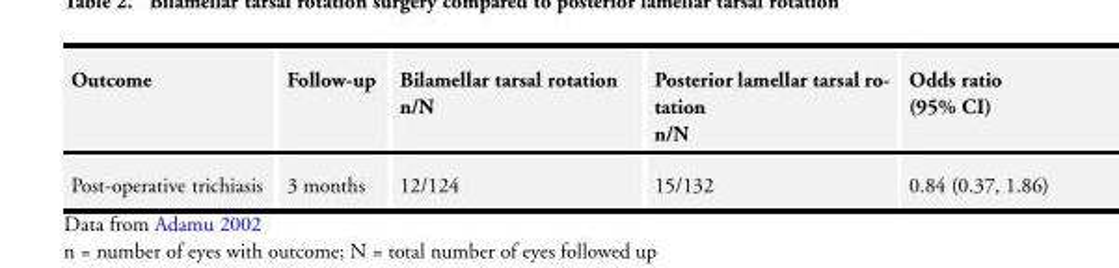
<table><tbody><tr><td>Outcome</td><td>Follow-up</td><td>Bilamellar tarsal rotation n/N</td><td>Posterior lamellar tarsal ro- tation n/N</td><td>Odds ratio (95% CI)</td></tr><tr><td>Post-operative trichiasis</td><td>3 months</td><td>12/124</td><td>15/132</td><td>0.84 (0.37, 1.86)</td></tr></tbody></table>